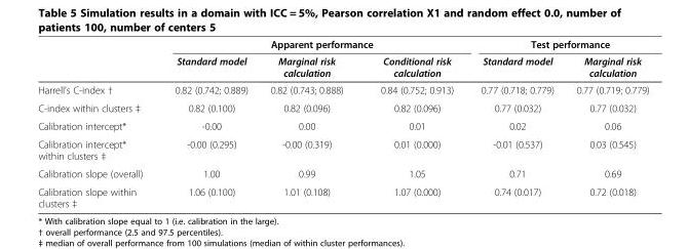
<table><thead><tr><td rowspan="2"></td><td colspan="3">Apparent performance</td><td colspan="2">Test performance</td></tr><tr><td>Standard model</td><td>Marginal risk calculation</td><td>Conditional risk calculation</td><td>Standard model</td><td>Marginal risk calculation</td></tr></thead><tbody><tr><td>Harrell’s C-index †</td><td>0.82 (0.742; 0.889)</td><td>0.82 (0.743; 0.888)</td><td>0.84 (0.752; 0.913)</td><td>0.77 (0.718; 0.779)</td><td>0.77 (0.719; 0.779)</td></tr><tr><td>C-index within clusters ‡</td><td>0.82 (0.100)</td><td>0.82 (0.096)</td><td>0.82 (0.096)</td><td>0.77 (0.032)</td><td>0.77 (0.032)</td></tr><tr><td>Calibration intercept*</td><td>-0.00</td><td>0.00</td><td>0.01</td><td>0.02</td><td>0.06</td></tr><tr><td>Calibration intercept* within clusters ‡</td><td>-0.00 (0.295)</td><td>-0.00 (0.319)</td><td>0.01 (0.000)</td><td>-0.01 (0.537)</td><td>0.03 (0.545)</td></tr><tr><td>Calibration slope (overall)</td><td>1.00</td><td>0.99</td><td>1.05</td><td>0.71</td><td>0.69</td></tr><tr><td>Calibration slope within clusters ‡</td><td>1.06 (0.100)</td><td>1.01 (0.108)</td><td>1.07 (0.000)</td><td>0.74 (0.017)</td><td>0.72 (0.018)</td></tr></tbody></table>